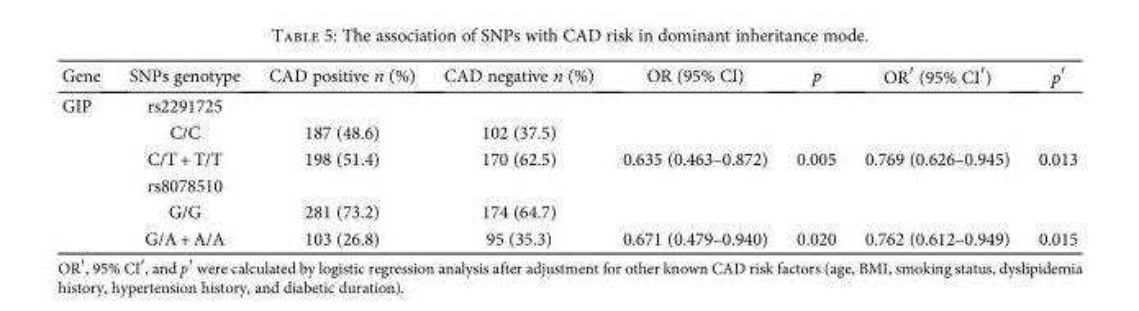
<table><thead><tr><td>Gene</td><td>SNPs genotype</td><td>CAD positive n (%)</td><td>CAD negative n (%)</td><td>OR (95% CI)</td><td>p</td><td>OR′ (95% CI′)</td><td>p′</td></tr></thead><tbody><tr><td rowspan="6">GIP</td><td>rs2291725</td><td></td><td></td><td></td><td></td><td></td><td></td></tr><tr><td>C/C</td><td>187 (48.6)</td><td>102 (37.5)</td><td></td><td></td><td></td><td></td></tr><tr><td>C/T + T/T</td><td>198 (51.4)</td><td>170 (62.5)</td><td>0.635 (0.463–0.872)</td><td>0.005</td><td>0.769 (0.626–0.945)</td><td>0.013</td></tr><tr><td>rs8078510</td><td></td><td></td><td></td><td></td><td></td><td></td></tr><tr><td>G/G</td><td>281 (73.2)</td><td>174 (64.7)</td><td></td><td></td><td></td><td></td></tr><tr><td>G/A + A/A</td><td>103 (26.8)</td><td>95 (35.3)</td><td>0.671 (0.479–0.940)</td><td>0.020</td><td>0.762 (0.612–0.949)</td><td>0.015</td></tr></tbody></table>